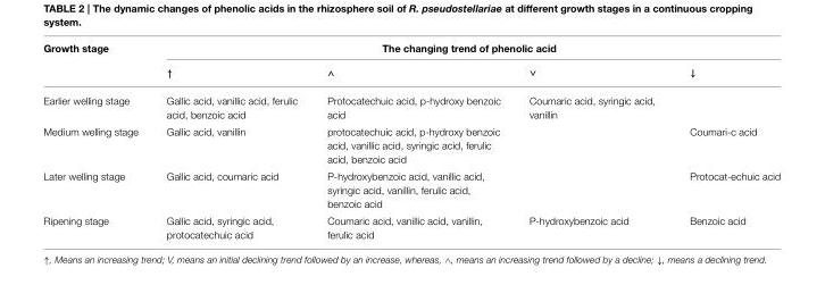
<table><thead><tr><td rowspan="2">Growth stage</td><td colspan="4">The changing trend of phenolic acid</td></tr><tr><td>↑</td><td>∧</td><td>∨</td><td>↓</td></tr></thead><tbody><tr><td>Earlier welling stage</td><td>Gallic acid, vanillic acid, ferulic acid, benzoic acid</td><td>Protocatechuic acid, p-hydroxy benzoic acid</td><td>Coumaric acid, syringic acid, vanillin</td><td></td></tr><tr><td>Medium welling stage</td><td>Gallic acid, vanillin</td><td>protocatechuic acid, p-hydroxy benzoic acid, vanillic acid, syringic acid, ferulic acid, benzoic acid</td><td></td><td>Coumari-c acid</td></tr><tr><td>Later welling stage</td><td>Gallic acid, coumaric acid</td><td>P-hydroxybenzoic acid, vanillic acid, syringic acid, vanillin, ferulic acid, benzoic acid</td><td></td><td>Protocat-echuic acid</td></tr><tr><td>Ripening stage</td><td>Gallic acid, syringic acid, protocatechuic acid</td><td>Coumaric acid, vanillic acid, vanillin, ferulic acid</td><td>P-hydroxybenzoic acid</td><td>Benzoic acid</td></tr></tbody></table>